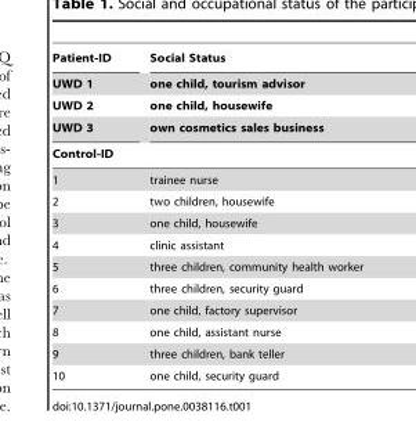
<table><thead><tr><td rowspan="4">Patient-ID UWD 1 UWD 2 UWD 3</td><td rowspan="4">Social Status one child, tourism advisor one child, housewife own cosmetics sales business</td></tr><tr></tr><tr></tr><tr></tr><tr><td colspan="2">Control-ID</td></tr></thead><tbody><tr><td>1</td><td>trainee nurse</td></tr><tr><td>2</td><td>two children, housewife</td></tr><tr><td>3</td><td>one child, housewife</td></tr><tr><td>4</td><td>clinic assistant</td></tr><tr><td>5</td><td>three children, community health worker</td></tr><tr><td>6</td><td>three children, security guard</td></tr><tr><td>7</td><td>one child, factory supervisor</td></tr><tr><td>8</td><td>one child, assistant nurse</td></tr><tr><td>9</td><td>three children, bank teller</td></tr><tr><td>10</td><td>one child, security guard</td></tr></tbody></table>